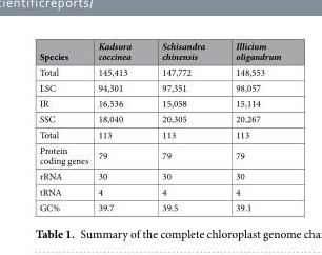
<table><thead><tr><td>Species</td><td>Kadsura coccinea</td><td>Schisandra chinensis</td><td>Illicium oligandrum</td></tr></thead><tbody><tr><td>Total</td><td>145,413</td><td>147,772</td><td>148,553</td></tr><tr><td>LSC</td><td>94,301</td><td>97,351</td><td>98,057</td></tr><tr><td>IR</td><td>16,536</td><td>15,058</td><td>15,114</td></tr><tr><td>SSC</td><td>18,040</td><td>20,305</td><td>20,267</td></tr><tr><td>Total</td><td>113</td><td>113</td><td>113</td></tr><tr><td>Protein coding genes</td><td>79</td><td>79</td><td>79</td></tr><tr><td>rRNA</td><td>30</td><td>30</td><td>30</td></tr><tr><td>tRNA</td><td>4</td><td>4</td><td>4</td></tr><tr><td>GC%</td><td>39.7</td><td>39.5</td><td>39.1</td></tr></tbody></table>